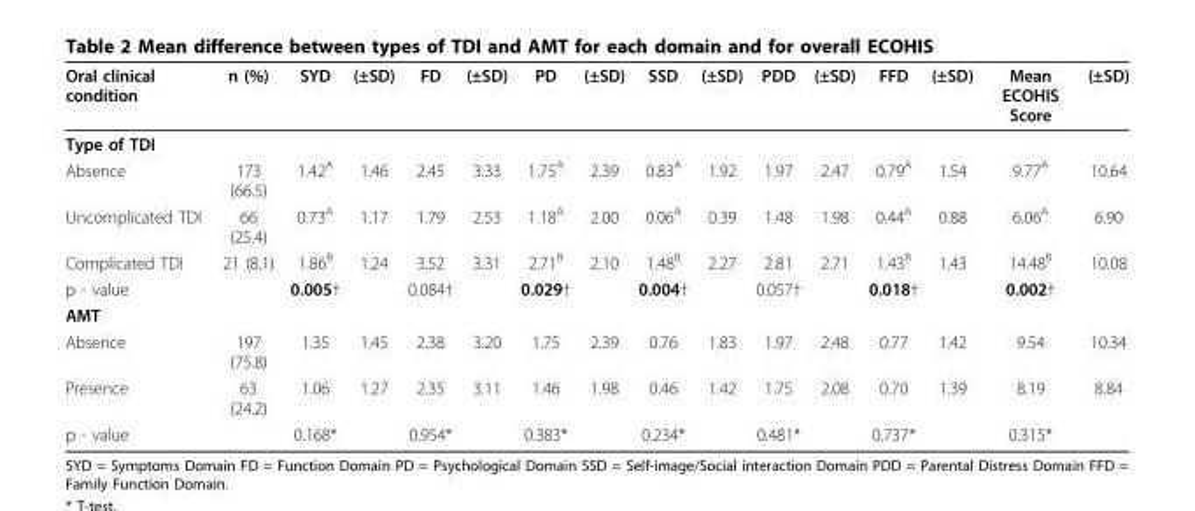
<table><thead><tr><td>Oral clinical condition</td><td>n (%)</td><td>SYD</td><td>(±SD)</td><td>FD</td><td>(±SD)</td><td>PD</td><td>(±SD)</td><td>SSD</td><td>(±SD)</td><td>PDD</td><td>(±SD)</td><td>FFD</td><td>(±SD)</td><td>Mean ECOHIS Score</td><td>(±SD)</td></tr></thead><tbody><tr><td colspan="16">Type of TDI</td></tr><tr><td>Absence</td><td>173 (66.5)</td><td>1.42<sup>A</sup></td><td>1.46</td><td>2.45</td><td>3.33</td><td>1.75<sup>A</sup></td><td>2.39</td><td>0.83<sup>A</sup></td><td>1.92</td><td>1.97</td><td>2.47</td><td>0.79<sup>A</sup></td><td>1.54</td><td>9.77<sup>A</sup></td><td>10.64</td></tr><tr><td>Uncomplicated TDI</td><td>66 (25.4)</td><td>0.73<sup>A</sup></td><td>1.17</td><td>1.79</td><td>2.53</td><td>1.18<sup>A</sup></td><td>2.00</td><td>0.06<sup>A</sup></td><td>0.39</td><td>1.48</td><td>1.98</td><td>0.44<sup>A</sup></td><td>0.88</td><td>6.06<sup>A</sup></td><td>6.90</td></tr><tr><td>Complicated TDI</td><td>21 (8.1)</td><td>1.86<sup>B</sup></td><td>1.24</td><td>3.52</td><td>3.31</td><td>2.71<sup>B</sup></td><td>2.10</td><td>1.48<sup>B</sup></td><td>2.27</td><td>2.81</td><td>2.71</td><td>1.43<sup>B</sup></td><td>1.43</td><td>14.48<sup>B</sup></td><td>10.08</td></tr><tr><td>p - value</td><td></td><td>0.005†</td><td></td><td>0.084†</td><td></td><td>0.029†</td><td></td><td>0.004†</td><td></td><td>0.057†</td><td></td><td>0.018†</td><td></td><td>0.002†</td><td></td></tr><tr><td colspan="16">AMT</td></tr><tr><td>Absence</td><td>197 (75.8)</td><td>1.35</td><td>1.45</td><td>2.38</td><td>3.20</td><td>1.75</td><td>2.39</td><td>0.76</td><td>1.83</td><td>1.97</td><td>2.48</td><td>0.77</td><td>1.42</td><td>9.54</td><td>10.34</td></tr><tr><td>Presence</td><td>63 (24.2)</td><td>1.06</td><td>1.27</td><td>2.35</td><td>3.11</td><td>1.46</td><td>1.98</td><td>0.46</td><td>1.42</td><td>1.75</td><td>2.08</td><td>0.70</td><td>1.39</td><td>8.19</td><td>8.84</td></tr><tr><td>p - value</td><td></td><td>0.168*</td><td></td><td>0.954*</td><td></td><td>0.383*</td><td></td><td>0.234*</td><td></td><td>0.481*</td><td></td><td>0.737*</td><td></td><td>0.315*</td><td></td></tr></tbody></table>